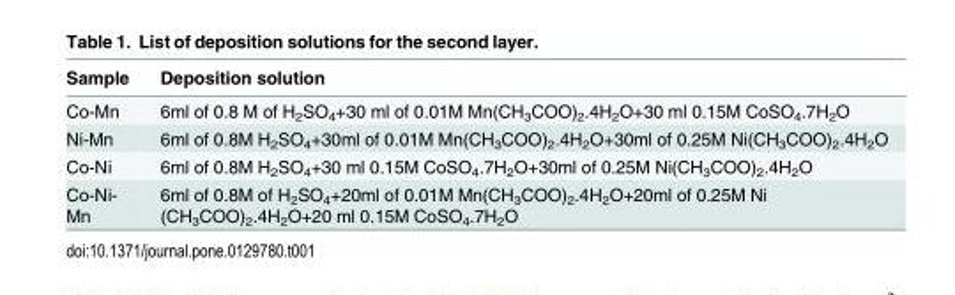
<table><thead><tr><td>Sample</td><td>Deposition solution</td></tr></thead><tbody><tr><td>Co-Mn</td><td>6ml of 0.8 M of H<sub>2</sub>SO<sub>4</sub>+30 ml of 0.01M Mn(CH<sub>3</sub>COO)<sub>2</sub>.4H<sub>2</sub>O+30 ml 0.15M CoSO<sub>4</sub>.7H<sub>2</sub>O</td></tr><tr><td>Ni-Mn</td><td>6ml of 0.8M H<sub>2</sub>SO<sub>4</sub>+30ml of 0.01M Mn(CH<sub>3</sub>COO)<sub>2</sub>.4H<sub>2</sub>O+30ml of 0.25M Ni(CH<sub>3</sub>COO)<sub>2</sub>.4H<sub>2</sub>O</td></tr><tr><td>Co-Ni</td><td>6ml of 0.8M H<sub>2</sub>SO<sub>4</sub>+30 ml 0.15M CoSO<sub>4</sub>.7H<sub>2</sub>O+30ml of 0.25M Ni(CH<sub>3</sub>COO)<sub>2</sub>.4H<sub>2</sub>O</td></tr><tr><td>Co-Ni- Mn</td><td>6ml of 0.8M of H<sub>2</sub>SO<sub>4</sub>+20ml of 0.01M Mn(CH<sub>3</sub>COO)<sub>2</sub>.4H<sub>2</sub>O+20ml of 0.25M Ni (CH<sub>3</sub>COO)<sub>2</sub>.4H<sub>2</sub>O+20 ml 0.15M CoSO<sub>4</sub>.7H<sub>2</sub>O</td></tr></tbody></table>